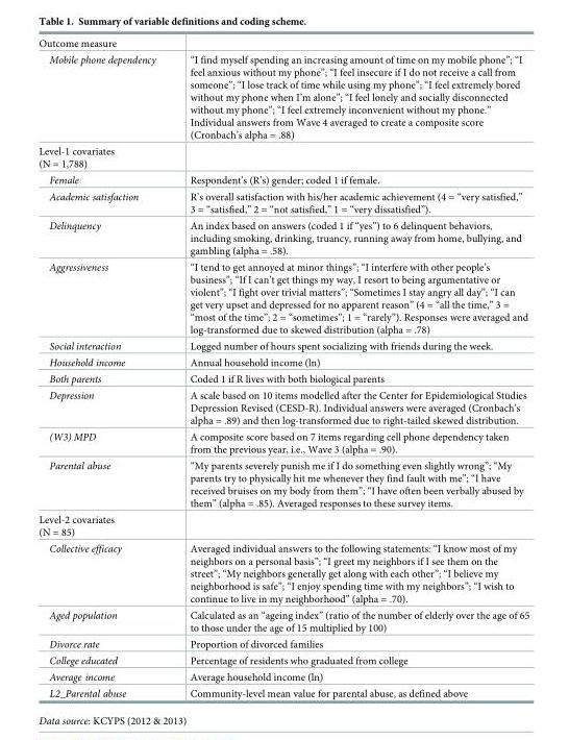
<table><tbody><tr><td colspan="2">Outcome measure</td></tr><tr><td>Mobile phone dependency</td><td>“I find myself spending an increasing amount of time on my mobile phone”; “I feel anxious without my phone”; “I feel insecure if I do not receive a call from someone”; “I lose track of time while using my phone”; “I feel extremely bored without my phone when I’m alone”; “I feel lonely and socially disconnected without my phone”; “I feel extremely inconvenient without my phone.” Individual answers from Wave 4 averaged to create a composite score (Cronbach’s alpha = .88)</td></tr><tr><td colspan="2">Level-1 covariates (N = 1,788)</td></tr><tr><td>Female</td><td>Respondent’s (R’s) gender; coded 1 if female.</td></tr><tr><td>Academic satisfaction</td><td>R’s overall satisfaction with his/her academic achievement (4 = “very satisfied,” 3 = “satisfied,” 2 = “not satisfied,” 1 = “very dissatisfied”).</td></tr><tr><td>Delinquency</td><td>An index based on answers (coded 1 if “yes”) to 6 delinquent behaviors, including smoking, drinking, truancy, running away from home, bullying, and gambling (alpha = .58).</td></tr><tr><td>Aggressiveness</td><td>“I tend to get annoyed at minor things”; “I interfere with other people’s business”; “If I can’t get things my way, I resort to being argumentative or violent”; “I fight over trivial matters”; “Sometimes I stay angry all day”; “I can get very upset and depressed for no apparent reason” (4 = “all the time,” 3 = “most of the time”; 2 = “sometimes”; 1 = “rarely”). Responses were averaged and log-transformed due to skewed distribution (alpha = .78)</td></tr><tr><td>Social interaction</td><td>Logged number of hours spent socializing with friends during the week.</td></tr><tr><td>Household income</td><td>Annual household income (ln)</td></tr><tr><td>Both parents</td><td>Coded 1 if R lives with both biological parents</td></tr><tr><td>Depression</td><td>A scale based on 10 items modelled after the Center for Epidemiological Studies Depression Revised (CESD-R). Individual answers were averaged (Cronbach’s alpha = .89) and then log-transformed due to right-tailed skewed distribution.</td></tr><tr><td>(W3) MPD</td><td>A composite score based on 7 items regarding cell phone dependency taken from the previous year, i.e., Wave 3 (alpha = .90).</td></tr><tr><td>Parental abuse</td><td>“My parents severely punish me if I do something even slightly wrong”; “My parents try to physically hit me whenever they find fault with me”; “I have received bruises on my body from them”; “I have often been verbally abused by them” (alpha = .85). Averaged responses to these survey items.</td></tr><tr><td colspan="2">Level-2 covariates (N = 85)</td></tr><tr><td>Collective efficacy</td><td>Averaged individual answers to the following statements: “I know most of my neighbors on a personal basis”; “I greet my neighbors if I see them on the street”; “My neighbors generally get along with each other”; “I believe my neighborhood is safe”; “I enjoy spending time with my neighbors”; “I wish to continue to live in my neighborhood” (alpha = .70).</td></tr><tr><td>Aged population</td><td>Calculated as an “ageing index” (ratio of the number of elderly over the age of 65 to those under the age of 15 multiplied by 100)</td></tr><tr><td>Divorce rate</td><td>Proportion of divorced families</td></tr><tr><td>College educated</td><td>Percentage of residents who graduated from college</td></tr><tr><td>Average income</td><td>Average household income (ln)</td></tr><tr><td>L2_Parental abuse</td><td>Community-level mean value for parental abuse, as defined above</td></tr></tbody></table>